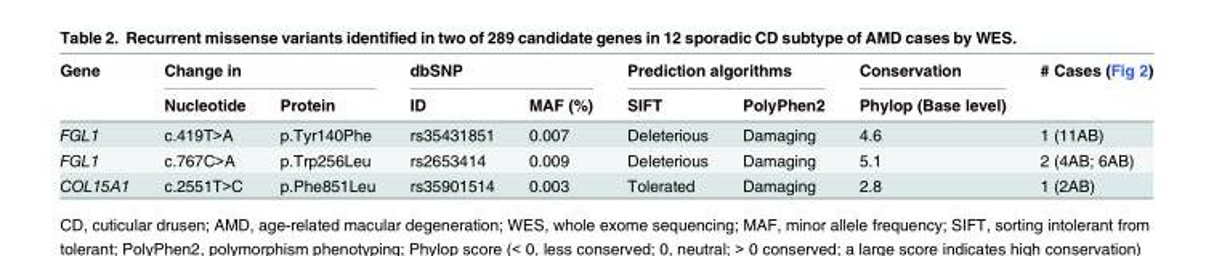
<table><thead><tr><td rowspan="2">Gene</td><td colspan="2">Change in</td><td colspan="2">dbSNP</td><td colspan="2">Prediction algorithms</td><td rowspan="2">Conservation Phylop (Base level)</td><td rowspan="2"># Cases (Fig 2)</td></tr><tr><td>Nucleotide</td><td>Protein</td><td>ID</td><td>MAF (%)</td><td>SIFT</td><td>PolyPhen2</td></tr></thead><tbody><tr><td>FGL1</td><td>c.419T&gt;A</td><td>p.Tyr140Phe</td><td>rs35431851</td><td>0.007</td><td>Deleterious</td><td>Damaging</td><td>4.6</td><td>1 (11AB)</td></tr><tr><td>FGL1</td><td>c.767C&gt;A</td><td>p.Trp256Leu</td><td>rs2653414</td><td>0.009</td><td>Deleterious</td><td>Damaging</td><td>5.1</td><td>2 (4AB; 6AB)</td></tr><tr><td>COL15A1</td><td>c.2551T&gt;C</td><td>p.Phe851Leu</td><td>rs35901514</td><td>0.003</td><td>Tolerated</td><td>Damaging</td><td>2.8</td><td>1 (2AB)</td></tr></tbody></table>